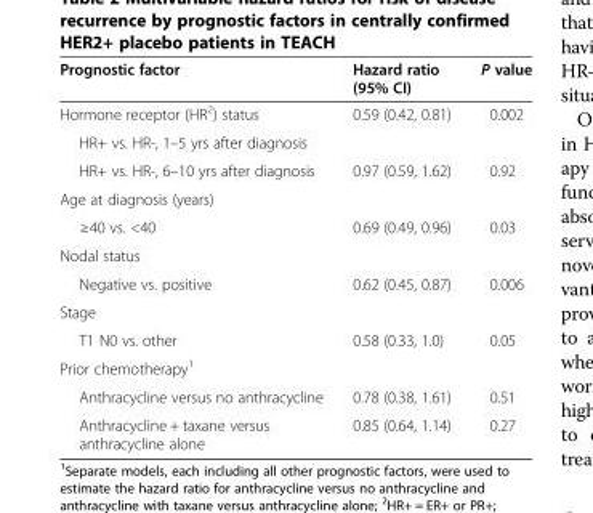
<table><thead><tr><td>Prognostic factor</td><td>Hazard ratio (95% CI)</td><td>P value</td></tr></thead><tbody><tr><td>Hormone receptor (HR<sup>2</sup>) status</td><td>0.59 (0.42, 0.81)</td><td>0.002</td></tr><tr><td colspan="3">HR+ vs. HR-, 1–5 yrs after diagnosis</td></tr><tr><td>HR+ vs. HR-, 6–10 yrs after diagnosis</td><td>0.97 (0.59, 1.62)</td><td>0.92</td></tr><tr><td colspan="3">Age at diagnosis (years)</td></tr><tr><td>≥40 vs. &lt;40</td><td>0.69 (0.49, 0.96)</td><td>0.03</td></tr><tr><td colspan="3">Nodal status</td></tr><tr><td>Negative vs. positive</td><td>0.62 (0.45, 0.87)</td><td>0.006</td></tr><tr><td colspan="3">Stage</td></tr><tr><td>T1 N0 vs. other</td><td>0.58 (0.33, 1.0)</td><td>0.05</td></tr><tr><td colspan="3">Prior chemotherapy<sup>1</sup></td></tr><tr><td>Anthracycline versus no anthracycline</td><td>0.78 (0.38, 1.61)</td><td>0.51</td></tr><tr><td>Anthracycline + taxane versus anthracycline alone</td><td>0.85 (0.64, 1.14)</td><td>0.27</td></tr></tbody></table>